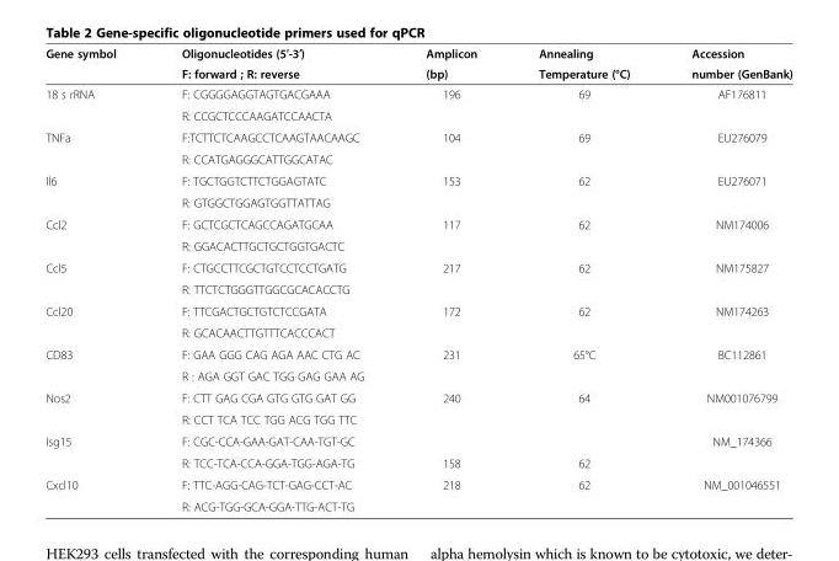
<table><thead><tr><td rowspan="2">Gene symbol</td><td rowspan="2">Oligonucleotides (5′-3′) F: forward ; R: reverse</td><td rowspan="2">Amplicon (bp)</td><td rowspan="2">Annealing Temperature (°C)</td><td rowspan="2">Accession number (GenBank)</td></tr><tr></tr></thead><tbody><tr><td rowspan="2">18 s rRNA</td><td>F: CGGGGAGGTAGTGACGAAA</td><td>196</td><td>69</td><td>AF176811</td></tr><tr><td>R: CCGCTCCCAAGATCCAACTA</td><td></td><td></td><td></td></tr><tr><td rowspan="2">TNFa</td><td>F:TCTTCTCAAGCCTCAAGTAACAAGC</td><td>104</td><td>69</td><td>EU276079</td></tr><tr><td>R: CCATGAGGGCATTGGCATAC</td><td></td><td></td><td></td></tr><tr><td rowspan="2">Il6</td><td>F: TGCTGGTCTTCTGGAGTATC</td><td>153</td><td>62</td><td>EU276071</td></tr><tr><td>R: GTGGCTGGAGTGGTTATTAG</td><td></td><td></td><td></td></tr><tr><td rowspan="2">Ccl2</td><td>F: GCTCGCTCAGCCAGATGCAA</td><td>117</td><td>62</td><td>NM174006</td></tr><tr><td>R: GGACACTTGCTGCTGGTGACTC</td><td></td><td></td><td></td></tr><tr><td rowspan="2">Ccl5</td><td>F: CTGCCTTCGCTGTCCTCCTGATG</td><td>217</td><td>62</td><td>NM175827</td></tr><tr><td>R: TTCTCTGGGTTGGCGCACACCTG</td><td></td><td></td><td></td></tr><tr><td rowspan="2">Ccl20</td><td>F: TTCGACTGCTGTCTCCGATA</td><td>172</td><td>62</td><td>NM174263</td></tr><tr><td>R: GCACAACTTGTTTCACCCACT</td><td></td><td></td><td></td></tr><tr><td rowspan="2">CD83</td><td>F: GAA GGG CAG AGA AAC CTG AC</td><td>231</td><td>65°C</td><td>BC112861</td></tr><tr><td>R : AGA GGT GAC TGG GAG GAA AG</td><td></td><td></td><td></td></tr><tr><td rowspan="2">Nos2</td><td>F: CTT GAG CGA GTG GTG GAT GG</td><td>240</td><td>64</td><td>NM001076799</td></tr><tr><td>R: CCT TCA TCC TGG ACG TGG TTC</td><td></td><td></td><td></td></tr><tr><td rowspan="2">Isg15</td><td>F: CGC-CCA-GAA-GAT-CAA-TGT-GC</td><td></td><td></td><td>NM_174366</td></tr><tr><td>R: TCC-TCA-CCA-GGA-TGG-AGA-TG</td><td>158</td><td>62</td><td></td></tr><tr><td rowspan="2">Cxcl10</td><td>F: TTC-AGG-CAG-TCT-GAG-CCT-AC</td><td>218</td><td>62</td><td>NM_001046551</td></tr><tr><td>R: ACG-TGG-GCA-GGA-TTG-ACT-TG</td><td></td><td></td><td></td></tr></tbody></table>